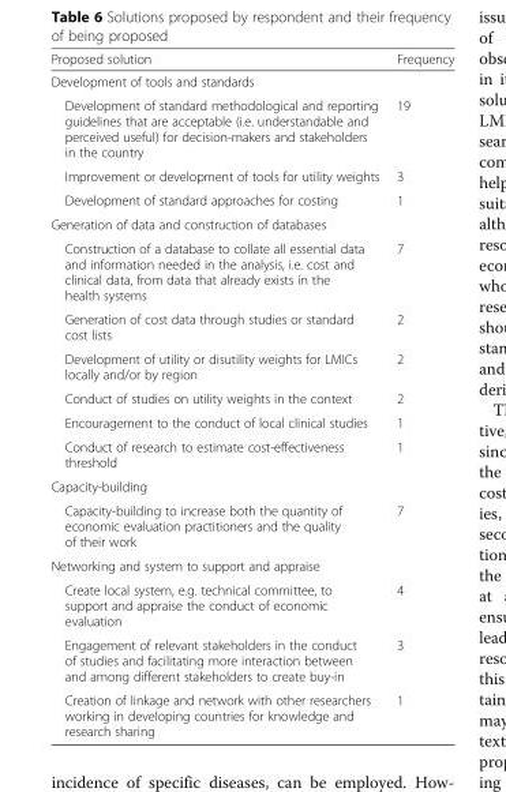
<table><thead><tr><td>Proposed solution</td><td>Frequency</td></tr></thead><tbody><tr><td colspan="2">Development of tools and standards</td></tr><tr><td>Development of standard methodological and reporting guidelines that are acceptable (i.e. understandable and perceived useful) for decision-makers and stakeholders in the country</td><td>19</td></tr><tr><td>Improvement or development of tools for utility weights</td><td>3</td></tr><tr><td>Development of standard approaches for costing</td><td>1</td></tr><tr><td colspan="2">Generation of data and construction of databases</td></tr><tr><td>Construction of a database to collate all essential data and information needed in the analysis, i.e. cost and clinical data, from data that already exists in the health systems</td><td>7</td></tr><tr><td>Generation of cost data through studies or standard cost lists</td><td>2</td></tr><tr><td>Development of utility or disutility weights for LMICs locally and/or by region</td><td>2</td></tr><tr><td>Conduct of studies on utility weights in the context</td><td>2</td></tr><tr><td>Encouragement to the conduct of local clinical studies</td><td>1</td></tr><tr><td>Conduct of research to estimate cost-effectiveness threshold</td><td>1</td></tr><tr><td colspan="2">Capacity-building</td></tr><tr><td>Capacity-building to increase both the quantity of economic evaluation practitioners and the quality of their work</td><td>7</td></tr><tr><td colspan="2">Networking and system to support and appraise</td></tr><tr><td>Create local system, e.g. technical committee, to support and appraise the conduct of economic evaluation</td><td>4</td></tr><tr><td>Engagement of relevant stakeholders in the conduct of studies and facilitating more interaction between and among different stakeholders to create buy-in</td><td>3</td></tr><tr><td>Creation of linkage and network with other researchers working in developing countries for knowledge and research sharing</td><td>1</td></tr></tbody></table>